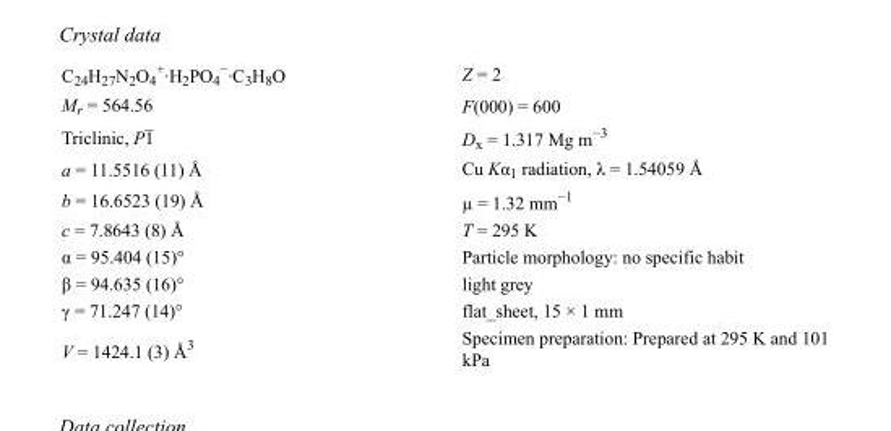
<table><tbody><tr><td>C<sub>24</sub>H<sub>27</sub>N<sub>2</sub>O<sub>4</sub> <sup>+</sup>·H<sub>2</sub>PO<sub>4</sub> <sup>−</sup>·C<sub>3</sub>H<sub>8</sub>O</td><td>Z = 2</td></tr><tr><td>M<sub>r</sub> = 564.56</td><td>F(000) = 600</td></tr><tr><td>Triclinic, P1</td><td>D<sub>x</sub> = 1.317 Mg m<sup>−3</sup></td></tr><tr><td>a = 11.5516 (11) Å</td><td>Cu Kα<sub>1</sub> radiation, λ = 1.54059 Å</td></tr><tr><td>b = 16.6523 (19) Å</td><td>µ = 1.32 mm<sup>−1</sup></td></tr><tr><td>c = 7.8643 (8) Å</td><td>T = 295 K</td></tr><tr><td>α = 95.404 (15)°</td><td>Particle morphology: no specific habit</td></tr><tr><td>β = 94.635 (16)°</td><td>light grey</td></tr><tr><td>γ = 71.247 (14)°</td><td>flat_sheet, 15 × 1 mm</td></tr><tr><td>V = 1424.1 (3) Å<sup>3</sup></td><td>Specimen preparation: Prepared at 295 K and 101 kPa</td></tr></tbody></table>